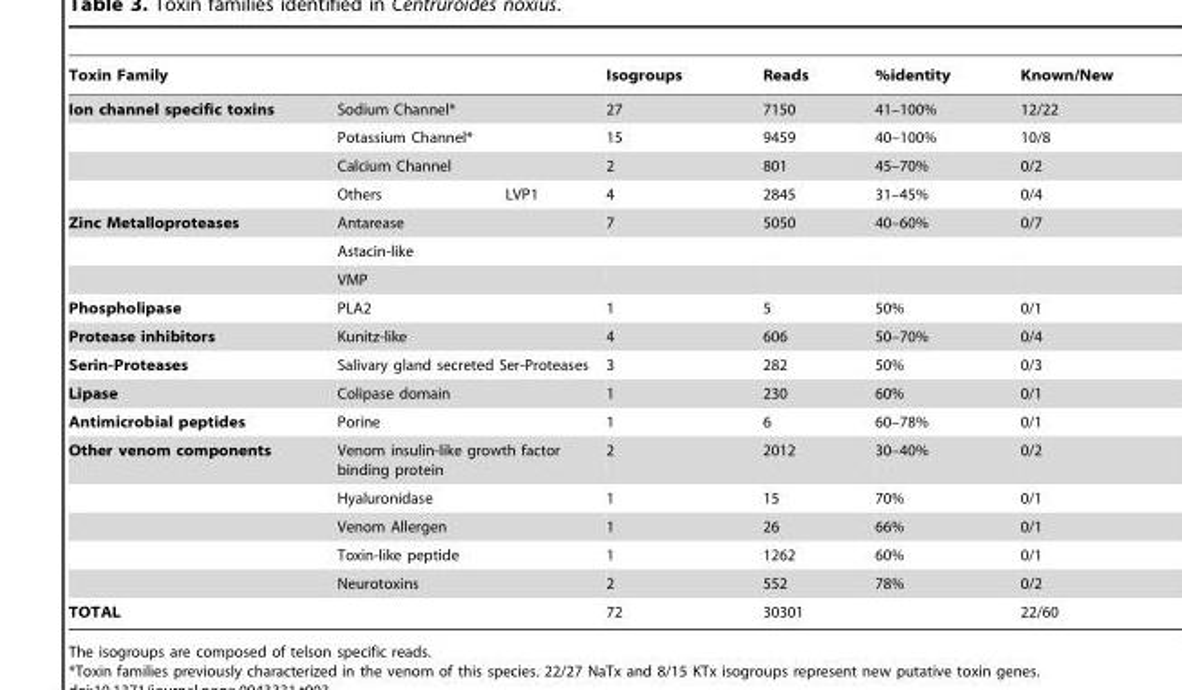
<table><thead><tr><td colspan="3">Toxin Family</td><td>Isogroups</td><td>Reads</td><td>%identity</td><td>Known/New</td></tr></thead><tbody><tr><td rowspan="4">Ion channel specific toxins</td><td colspan="2">Sodium Channel*</td><td>27</td><td>7150</td><td>41–100%</td><td>12/22</td></tr><tr><td colspan="2">Potassium Channel*</td><td>15</td><td>9459</td><td>40–100%</td><td>10/8</td></tr><tr><td colspan="2">Calcium Channel</td><td>2</td><td>801</td><td>45–70%</td><td>0/2</td></tr><tr><td>Others</td><td>LVP1</td><td>4</td><td>2845</td><td>31–45%</td><td>0/4</td></tr><tr><td rowspan="3">Zinc Metalloproteases</td><td colspan="2">Antarease</td><td>7</td><td>5050</td><td>40–60%</td><td>0/7</td></tr><tr><td colspan="2">Astacin-like</td><td></td><td></td><td></td><td></td></tr><tr><td colspan="2">VMP</td><td></td><td></td><td></td><td></td></tr><tr><td>Phospholipase</td><td colspan="2">PLA2</td><td>1</td><td>5</td><td>50%</td><td>0/1</td></tr><tr><td>Protease inhibitors</td><td colspan="2">Kunitz-like</td><td>4</td><td>606</td><td>50–70%</td><td>0/4</td></tr><tr><td>Serin-Proteases</td><td colspan="2">Salivary gland secreted Ser-Proteases</td><td>3</td><td>282</td><td>50%</td><td>0/3</td></tr><tr><td>Lipase</td><td colspan="2">Colipase domain</td><td>1</td><td>230</td><td>60%</td><td>0/1</td></tr><tr><td>Antimicrobial peptides</td><td colspan="2">Porine</td><td>1</td><td>6</td><td>60–78%</td><td>0/1</td></tr><tr><td rowspan="5">Other venom components</td><td colspan="2">Venom insulin-like growth factor binding protein</td><td>2</td><td>2012</td><td>30–40%</td><td>0/2</td></tr><tr><td colspan="2">Hyaluronidase</td><td>1</td><td>15</td><td>70%</td><td>0/1</td></tr><tr><td colspan="2">Venom Allergen</td><td>1</td><td>26</td><td>66%</td><td>0/1</td></tr><tr><td colspan="2">Toxin-like peptide</td><td>1</td><td>1262</td><td>60%</td><td>0/1</td></tr><tr><td colspan="2">Neurotoxins</td><td>2</td><td>552</td><td>78%</td><td>0/2</td></tr><tr><td>TOTAL</td><td colspan="2"></td><td>72</td><td>30301</td><td></td><td>22/60</td></tr></tbody></table>